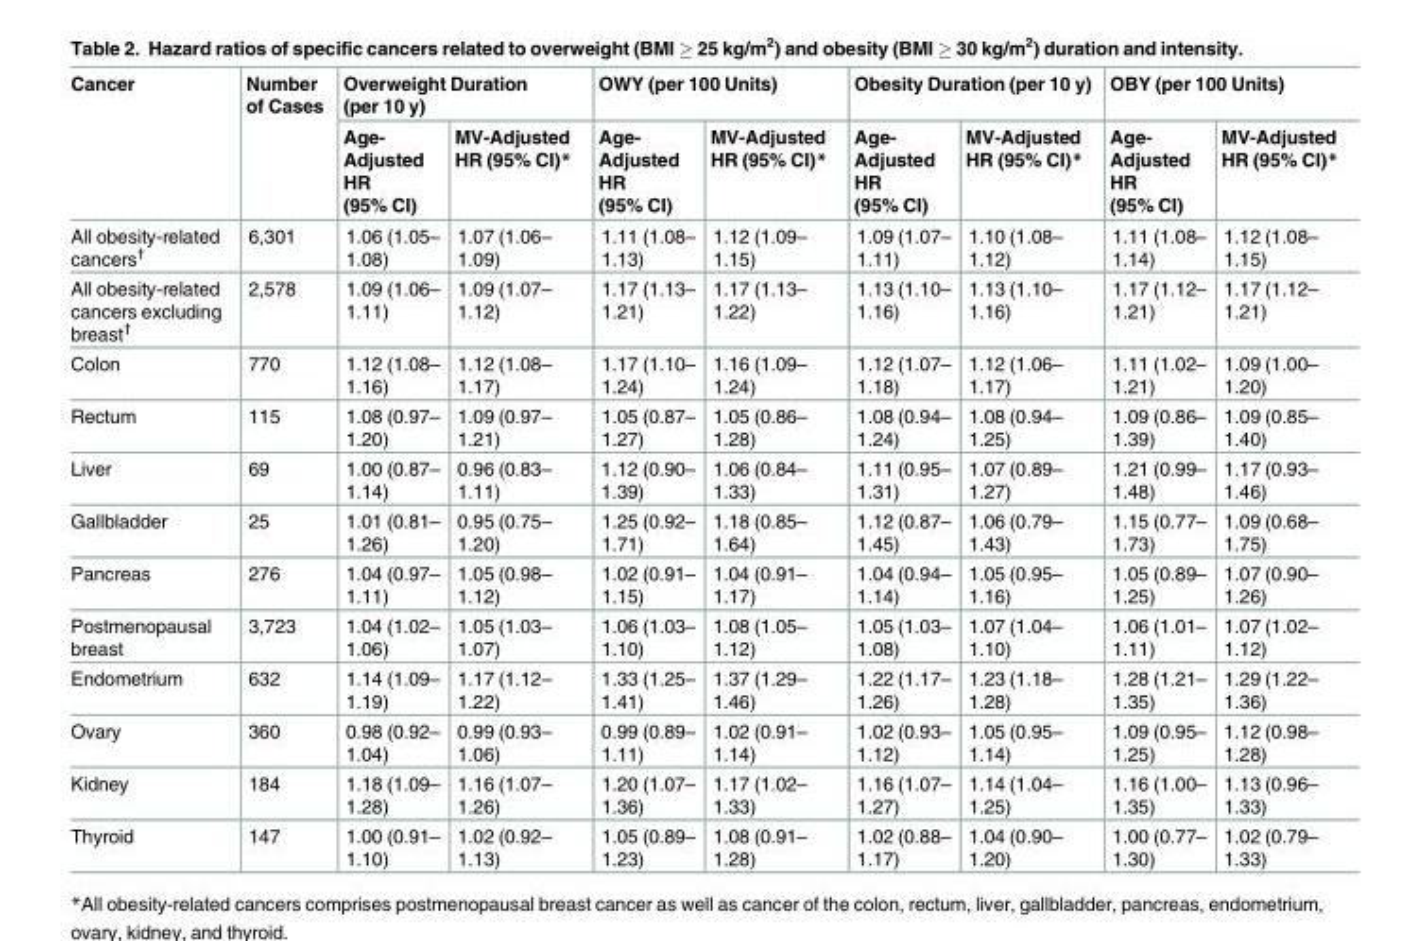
<table><thead><tr><td rowspan="2">Cancer</td><td rowspan="2">Number of Cases</td><td colspan="2">Overweight Duration (per 10 y)</td><td colspan="2">OWY (per 100 Units)</td><td colspan="2">Obesity Duration (per 10 y)</td><td colspan="2">OBY (per 100 Units)</td></tr><tr><td>Age- Adjusted HR (95% CI)</td><td>MV-Adjusted HR (95% CI)*</td><td>Age- Adjusted HR (95% CI)</td><td>MV-Adjusted HR (95% CI)*</td><td>Age- Adjusted HR (95% CI)</td><td>MV-Adjusted HR (95% CI)*</td><td>Age- Adjusted HR (95% CI)</td><td>MV-Adjusted HR (95% CI)*</td></tr></thead><tbody><tr><td>All obesity-related cancers<sup>†</sup></td><td>6,301</td><td>1.06 (1.05– 1.08)</td><td>1.07 (1.06– 1.09)</td><td>1.11 (1.08– 1.13)</td><td>1.12 (1.09– 1.15)</td><td>1.09 (1.07– 1.11)</td><td>1.10 (1.08– 1.12)</td><td>1.11 (1.08– 1.14)</td><td>1.12 (1.08– 1.15)</td></tr><tr><td>All obesity-related cancers excluding breast<sup>†</sup></td><td>2,578</td><td>1.09 (1.06– 1.11)</td><td>1.09 (1.07– 1.12)</td><td>1.17 (1.13– 1.21)</td><td>1.17 (1.13– 1.22)</td><td>1.13 (1.10– 1.16)</td><td>1.13 (1.10– 1.16)</td><td>1.17 (1.12– 1.21)</td><td>1.17 (1.12– 1.21)</td></tr><tr><td>Colon</td><td>770</td><td>1.12 (1.08– 1.16)</td><td>1.12 (1.08– 1.17)</td><td>1.17 (1.10– 1.24)</td><td>1.16 (1.09– 1.24)</td><td>1.12 (1.07– 1.18)</td><td>1.12 (1.06– 1.17)</td><td>1.11 (1.02– 1.21)</td><td>1.09 (1.00– 1.20)</td></tr><tr><td>Rectum</td><td>115</td><td>1.08 (0.97– 1.20)</td><td>1.09 (0.97– 1.21)</td><td>1.05 (0.87– 1.27)</td><td>1.05 (0.86– 1.28)</td><td>1.08 (0.94– 1.24)</td><td>1.08 (0.94– 1.25)</td><td>1.09 (0.86– 1.39)</td><td>1.09 (0.85– 1.40)</td></tr><tr><td>Liver</td><td>69</td><td>1.00 (0.87– 1.14)</td><td>0.96 (0.83– 1.11)</td><td>1.12 (0.90– 1.39)</td><td>1.06 (0.84– 1.33)</td><td>1.11 (0.95– 1.31)</td><td>1.07 (0.89– 1.27)</td><td>1.21 (0.99– 1.48)</td><td>1.17 (0.93– 1.46)</td></tr><tr><td>Gallbladder</td><td>25</td><td>1.01 (0.81– 1.26)</td><td>0.95 (0.75– 1.20)</td><td>1.25 (0.92– 1.71)</td><td>1.18 (0.85– 1.64)</td><td>1.12 (0.87– 1.45)</td><td>1.06 (0.79– 1.43)</td><td>1.15 (0.77– 1.73)</td><td>1.09 (0.68– 1.75)</td></tr><tr><td>Pancreas</td><td>276</td><td>1.04 (0.97– 1.11)</td><td>1.05 (0.98– 1.12)</td><td>1.02 (0.91– 1.15)</td><td>1.04 (0.91– 1.17)</td><td>1.04 (0.94– 1.14)</td><td>1.05 (0.95– 1.16)</td><td>1.05 (0.89– 1.25)</td><td>1.07 (0.90– 1.26)</td></tr><tr><td>Postmenopausal breast</td><td>3,723</td><td>1.04 (1.02– 1.06)</td><td>1.05 (1.03– 1.07)</td><td>1.06 (1.03– 1.10)</td><td>1.08 (1.05– 1.12)</td><td>1.05 (1.03– 1.08)</td><td>1.07 (1.04– 1.10)</td><td>1.06 (1.01– 1.11)</td><td>1.07 (1.02– 1.12)</td></tr><tr><td>Endometrium</td><td>632</td><td>1.14 (1.09– 1.19)</td><td>1.17 (1.12– 1.22)</td><td>1.33 (1.25– 1.41)</td><td>1.37 (1.29– 1.46)</td><td>1.22 (1.17– 1.26)</td><td>1.23 (1.18– 1.28)</td><td>1.28 (1.21– 1.35)</td><td>1.29 (1.22– 1.36)</td></tr><tr><td>Ovary</td><td>360</td><td>0.98 (0.92– 1.04)</td><td>0.99 (0.93– 1.06)</td><td>0.99 (0.89– 1.11)</td><td>1.02 (0.91– 1.14)</td><td>1.02 (0.93– 1.12)</td><td>1.05 (0.95– 1.14)</td><td>1.09 (0.95– 1.25)</td><td>1.12 (0.98– 1.28)</td></tr><tr><td>Kidney</td><td>184</td><td>1.18 (1.09– 1.28)</td><td>1.16 (1.07– 1.26)</td><td>1.20 (1.07– 1.36)</td><td>1.17 (1.02– 1.33)</td><td>1.16 (1.07– 1.27)</td><td>1.14 (1.04– 1.25)</td><td>1.16 (1.00– 1.35)</td><td>1.13 (0.96– 1.33)</td></tr><tr><td>Thyroid</td><td>147</td><td>1.00 (0.91– 1.10)</td><td>1.02 (0.92– 1.13)</td><td>1.05 (0.89– 1.23)</td><td>1.08 (0.91– 1.28)</td><td>1.02 (0.88– 1.17)</td><td>1.04 (0.90– 1.20)</td><td>1.00 (0.77– 1.30)</td><td>1.02 (0.79– 1.33)</td></tr></tbody></table>